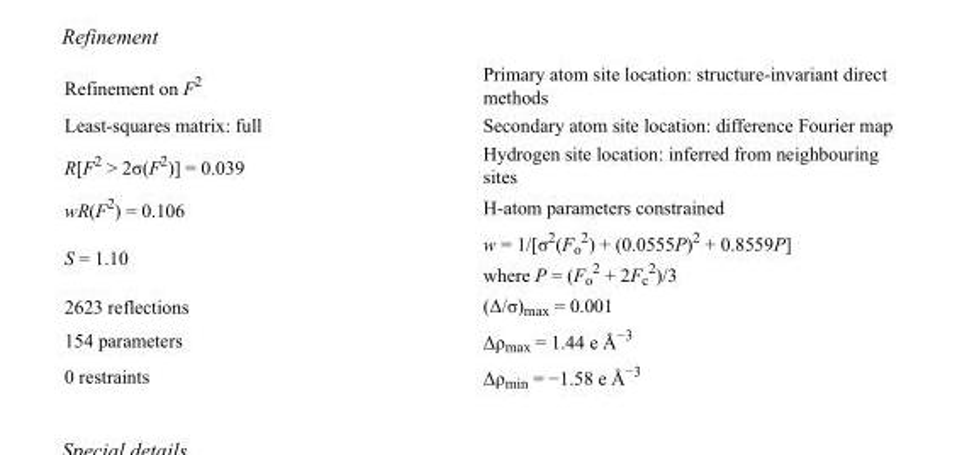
<table><tbody><tr><td>Refinement on F<sup>2</sup></td><td>Primary atom site location: structure-invariant direct methods</td></tr><tr><td>Least-squares matrix: full</td><td>Secondary atom site location: difference Fourier map</td></tr><tr><td>R[F<sup>2</sup> &gt; 2σ(F<sup>2</sup>)] = 0.039</td><td>Hydrogen site location: inferred from neighbouring sites</td></tr><tr><td>wR(F<sup>2</sup>) = 0.106</td><td>H-atom parameters constrained</td></tr><tr><td>S = 1.10</td><td>w = 1/[σ<sup>2</sup>(F<sub>o</sub> <sup>2</sup>) + (0.0555P)<sup>2</sup> + 0.8559P] where P = (F<sub>o</sub> <sup>2</sup> + 2F<sub>c</sub> <sup>2</sup>)/3</td></tr><tr><td>2623 reflections</td><td>(Δ/σ)<sub>max</sub> = 0.001</td></tr><tr><td>154 parameters</td><td>Δρ<sub>max</sub> = 1.44 e Å<sup>−3</sup></td></tr><tr><td>0 restraints</td><td>Δρ<sub>min</sub> = −1.58 e Å<sup>−3</sup></td></tr></tbody></table>